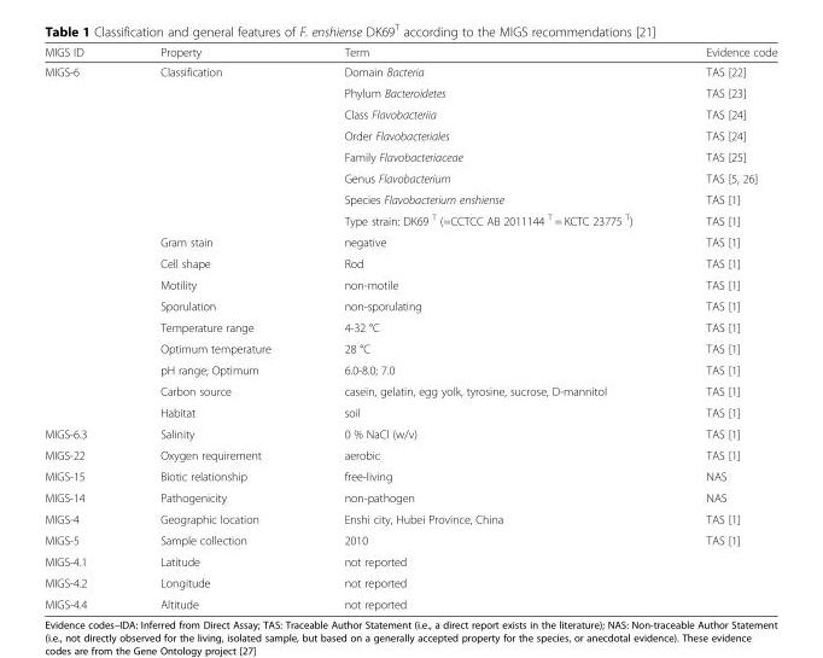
<table><thead><tr><td>MIGS ID</td><td>Property</td><td>Term</td><td>Evidence code</td></tr></thead><tbody><tr><td rowspan="17">MIGS-6</td><td rowspan="8">Classification</td><td>Domain Bacteria</td><td>TAS [22]</td></tr><tr><td>Phylum Bacteroidetes</td><td>TAS [23]</td></tr><tr><td>Class Flavobacteriia</td><td>TAS [24]</td></tr><tr><td>Order Flavobacteriales</td><td>TAS [24]</td></tr><tr><td>Family Flavobacteriaceae</td><td>TAS [25]</td></tr><tr><td>Genus Flavobacterium</td><td>TAS [5, 26]</td></tr><tr><td>Species Flavobacterium enshiense</td><td>TAS [1]</td></tr><tr><td>Type strain: DK69 <sup>T</sup> (=CCTCC AB 2011144 <sup>T</sup> = KCTC 23775 <sup>T</sup>)</td><td>TAS [1]</td></tr><tr><td>Gram stain</td><td>negative</td><td>TAS [1]</td></tr><tr><td>Cell shape</td><td>Rod</td><td>TAS [1]</td></tr><tr><td>Motility</td><td>non-motile</td><td>TAS [1]</td></tr><tr><td>Sporulation</td><td>non-sporulating</td><td>TAS [1]</td></tr><tr><td>Temperature range</td><td>4-32 °C</td><td>TAS [1]</td></tr><tr><td>Optimum temperature</td><td>28 °C</td><td>TAS [1]</td></tr><tr><td>pH range; Optimum</td><td>6.0-8.0; 7.0</td><td>TAS [1]</td></tr><tr><td>Carbon source</td><td>casein, gelatin, egg yolk, tyrosine, sucrose, D-mannitol</td><td>TAS [1]</td></tr><tr><td>Habitat</td><td>soil</td><td>TAS [1]</td></tr><tr><td>MIGS-6.3</td><td>Salinity</td><td>0 % NaCl (w/v)</td><td>TAS [1]</td></tr><tr><td>MIGS-22</td><td>Oxygen requirement</td><td>aerobic</td><td>TAS [1]</td></tr><tr><td>MIGS-15</td><td>Biotic relationship</td><td>free-living</td><td>NAS</td></tr><tr><td>MIGS-14</td><td>Pathogenicity</td><td>non-pathogen</td><td>NAS</td></tr><tr><td>MIGS-4</td><td>Geographic location</td><td>Enshi city, Hubei Province, China</td><td>TAS [1]</td></tr><tr><td>MIGS-5</td><td>Sample collection</td><td>2010</td><td>TAS [1]</td></tr><tr><td>MIGS-4.1</td><td>Latitude</td><td>not reported</td><td></td></tr><tr><td>MIGS-4.2</td><td>Longitude</td><td>not reported</td><td></td></tr><tr><td>MIGS-4.4</td><td>Altitude</td><td>not reported</td><td></td></tr></tbody></table>